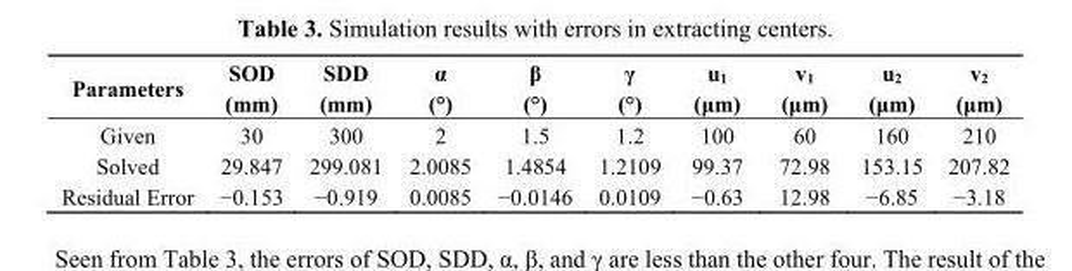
<table><thead><tr><td>Parameters</td><td>SOD (mm)</td><td>SDD (mm)</td><td>α (°)</td><td>β (°)</td><td>γ (°)</td><td>u<sub>1</sub> (μm)</td><td>v<sub>1</sub> (μm)</td><td>u<sub>2</sub> (μm)</td><td>v<sub>2</sub> (μm)</td></tr></thead><tbody><tr><td>Given</td><td>30</td><td>300</td><td>2</td><td>1.5</td><td>1.2</td><td>100</td><td>60</td><td>160</td><td>210</td></tr><tr><td>Solved</td><td>29.847</td><td>299.081</td><td>2.0085</td><td>1.4854</td><td>1.2109</td><td>99.37</td><td>72.98</td><td>153.15</td><td>207.82</td></tr><tr><td>Residual Error</td><td>−0.153</td><td>−0.919</td><td>0.0085</td><td>−0.0146</td><td>0.0109</td><td>−0.63</td><td>12.98</td><td>−6.85</td><td>−3.18</td></tr></tbody></table>